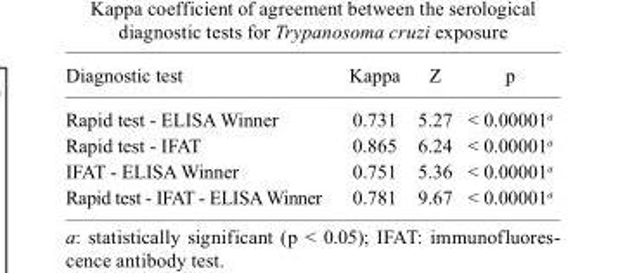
<table><thead><tr><td>Diagnostic test</td><td>Kappa</td><td>Z</td><td>p</td></tr></thead><tbody><tr><td>Rapid test - ELISA Winner</td><td>0.731</td><td>5.27</td><td>&lt; 0.00001<sup>a</sup></td></tr><tr><td>Rapid test - IFAT</td><td>0.865</td><td>6.24</td><td>&lt; 0.00001<sup>a</sup></td></tr><tr><td>IFAT - ELISA Winner</td><td>0.751</td><td>5.36</td><td>&lt; 0.00001<sup>a</sup></td></tr><tr><td>Rapid test - IFAT - ELISA Winner</td><td>0.781</td><td>9.67</td><td>&lt; 0.00001<sup>a</sup></td></tr></tbody></table>